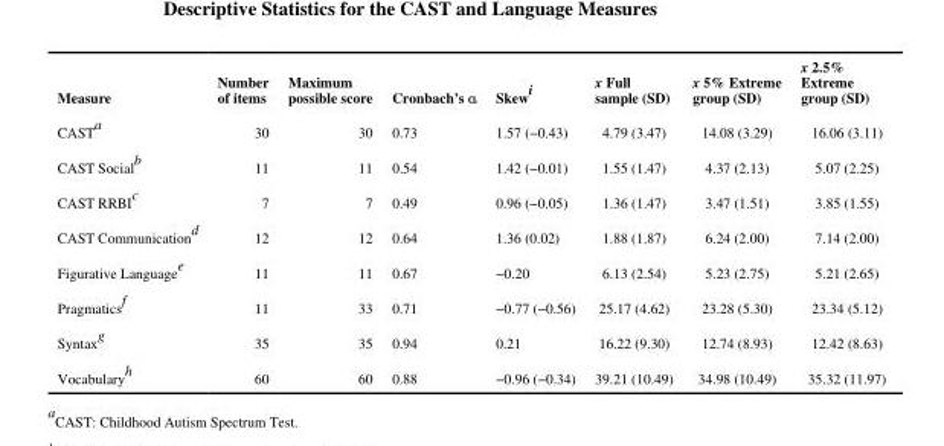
<table><thead><tr><td>Measure</td><td>Number of items</td><td>Maximum possible score</td><td>Cronbach’s α</td><td>Skew<sup>i</sup></td><td>x Full sample (SD)</td><td>x 5% Extreme group (SD)</td><td>x 2.5% Extreme group (SD)</td></tr></thead><tbody><tr><td>CAST<sup>a</sup></td><td>30</td><td>30</td><td>0.73</td><td>1.57 (−0.43)</td><td>4.79 (3.47)</td><td>14.08 (3.29)</td><td>16.06 (3.11)</td></tr><tr><td>CAST Social<sup>b</sup></td><td>11</td><td>11</td><td>0.54</td><td>1.42 (−0.01)</td><td>1.55 (1.47)</td><td>4.37 (2.13)</td><td>5.07 (2.25)</td></tr><tr><td>CAST RRBI<sup>c</sup></td><td>7</td><td>7</td><td>0.49</td><td>0.96 (−0.05)</td><td>1.36 (1.47)</td><td>3.47 (1.51)</td><td>3.85 (1.55)</td></tr><tr><td>CAST Communication<sup>d</sup></td><td>12</td><td>12</td><td>0.64</td><td>1.36 (0.02)</td><td>1.88 (1.87)</td><td>6.24 (2.00)</td><td>7.14 (2.00)</td></tr><tr><td>Figurative Language<sup>e</sup></td><td>11</td><td>11</td><td>0.67</td><td>−0.20</td><td>6.13 (2.54)</td><td>5.23 (2.75)</td><td>5.21 (2.65)</td></tr><tr><td>Pragmatics<sup>f</sup></td><td>11</td><td>33</td><td>0.71</td><td>−0.77 (−0.56)</td><td>25.17 (4.62)</td><td>23.28 (5.30)</td><td>23.34 (5.12)</td></tr><tr><td>Syntax<sup>g</sup></td><td>35</td><td>35</td><td>0.94</td><td>0.21</td><td>16.22 (9.30)</td><td>12.74 (8.93)</td><td>12.42 (8.63)</td></tr><tr><td>Vocabulary<sup>h</sup></td><td>60</td><td>60</td><td>0.88</td><td>−0.96 (−0.34)</td><td>39.21 (10.49)</td><td>34.98 (10.49)</td><td>35.32 (11.97)</td></tr></tbody></table>